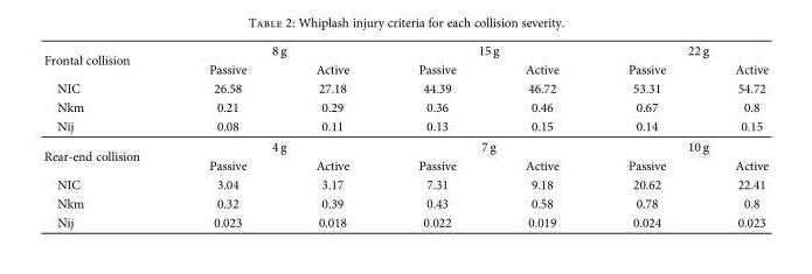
<table><tbody><tr><td rowspan="2">Frontal collision</td><td colspan="2">8 g</td><td colspan="2">15 g</td><td colspan="2">22 g</td></tr><tr><td>Passive</td><td>Active</td><td>Passive</td><td>Active</td><td>Passive</td><td>Active</td></tr><tr><td>NIC</td><td>26.58</td><td>27.18</td><td>44.39</td><td>46.72</td><td>53.31</td><td>54.72</td></tr><tr><td>Nkm</td><td>0.21</td><td>0.29</td><td>0.36</td><td>0.46</td><td>0.67</td><td>0.8</td></tr><tr><td>Nij</td><td>0.08</td><td>0.11</td><td>0.13</td><td>0.15</td><td>0.14</td><td>0.15</td></tr><tr><td rowspan="2">Rear-end collision</td><td colspan="2">4 g</td><td colspan="2">7 g</td><td colspan="2">10 g</td></tr><tr><td>Passive</td><td>Active</td><td>Passive</td><td>Active</td><td>Passive</td><td>Active</td></tr><tr><td>NIC</td><td>3.04</td><td>3.17</td><td>7.31</td><td>9.18</td><td>20.62</td><td>22.41</td></tr><tr><td>Nkm</td><td>0.32</td><td>0.39</td><td>0.43</td><td>0.58</td><td>0.78</td><td>0.8</td></tr><tr><td>Nij</td><td>0.023</td><td>0.018</td><td>0.022</td><td>0.019</td><td>0.024</td><td>0.023</td></tr></tbody></table>